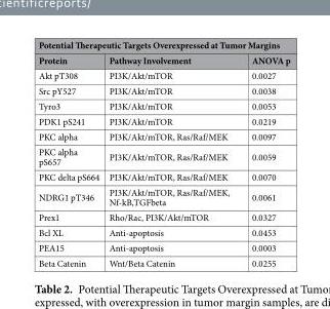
<table><thead><tr><td colspan="3">Potential Therapeutic Targets Overexpressed at Tumor Margins</td></tr><tr><td>Protein</td><td>Pathway Involvement</td><td>ANOVA p</td></tr></thead><tbody><tr><td>Akt pT308</td><td>PI3K/Akt/mTOR</td><td>0.0027</td></tr><tr><td>Src pY527</td><td>PI3K/Akt/mTOR</td><td>0.0038</td></tr><tr><td>Tyro3</td><td>PI3K/Akt/mTOR</td><td>0.0053</td></tr><tr><td>PDK1 pS241</td><td>PI3K/Akt/mTOR</td><td>0.0219</td></tr><tr><td>PKC alpha</td><td>PI3K/Akt/mTOR, Ras/Raf/MEK</td><td>0.0097</td></tr><tr><td>PKC alpha pS657</td><td>PI3K/Akt/mTOR, Ras/Raf/MEK</td><td>0.0059</td></tr><tr><td>PKC delta pS664</td><td>PI3K/Akt/mTOR, Ras/Raf/MEK</td><td>0.0070</td></tr><tr><td>NDRG1 pT346</td><td>PI3K/Akt/mTOR, Ras/Raf/MEK, Nf-kB,TGFbeta</td><td>0.0061</td></tr><tr><td>Prex1</td><td>Rho/Rac, PI3K/Akt/mTOR</td><td>0.0327</td></tr><tr><td>Bcl XL</td><td>Anti-apoptosis</td><td>0.0453</td></tr><tr><td>PEA15</td><td>Anti-apoptosis</td><td>0.0003</td></tr><tr><td>Beta Catenin</td><td>Wnt/Beta Catenin</td><td>0.0255</td></tr></tbody></table>